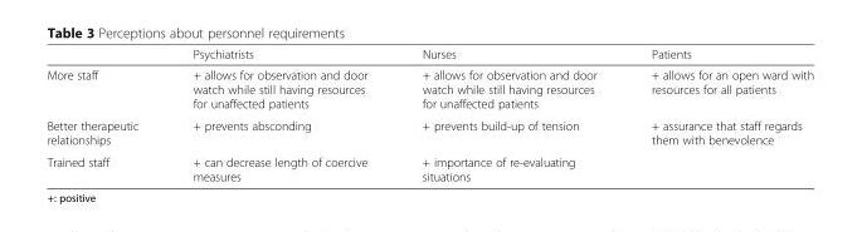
<table><thead><tr><td></td><td>Psychiatrists</td><td>Nurses</td><td>Patients</td></tr></thead><tbody><tr><td>More staff</td><td>+ allows for observation and door watch while still having resources for unaffected patients</td><td>+ allows for observation and door watch while still having resources for unaffected patients</td><td>+ allows for an open ward with resources for all patients</td></tr><tr><td>Better therapeutic relationships</td><td>+ prevents absconding</td><td>+ prevents build-up of tension</td><td>+ assurance that staff regards them with benevolence</td></tr><tr><td>Trained staff</td><td>+ can decrease length of coercive measures</td><td>+ importance of re-evaluating situations</td><td></td></tr></tbody></table>